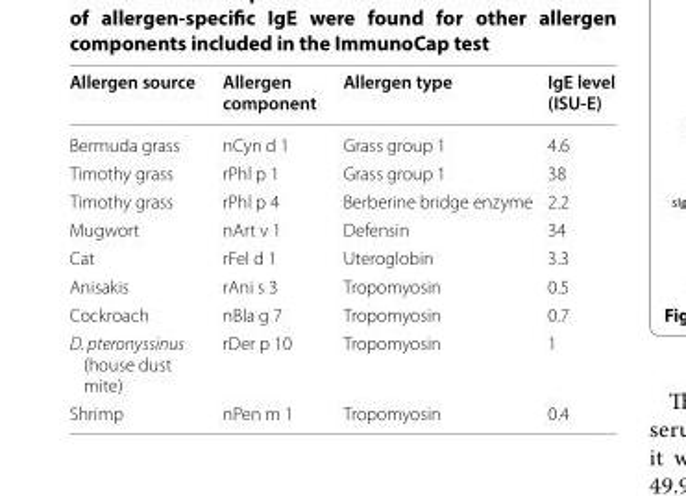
<table><thead><tr><td>Allergen source</td><td>Allergen component</td><td>Allergen type</td><td>IgE level (ISU-E)</td></tr></thead><tbody><tr><td>Bermuda grass</td><td>nCyn d 1</td><td>Grass group 1</td><td>4.6</td></tr><tr><td>Timothy grass</td><td>rPhl p 1</td><td>Grass group 1</td><td>38</td></tr><tr><td>Timothy grass</td><td>rPhl p 4</td><td>Berberine bridge enzyme</td><td>2.2</td></tr><tr><td>Mugwort</td><td>nArt v 1</td><td>Defensin</td><td>34</td></tr><tr><td>Cat</td><td>rFel d 1</td><td>Uteroglobin</td><td>3.3</td></tr><tr><td>Anisakis</td><td>rAni s 3</td><td>Tropomyosin</td><td>0.5</td></tr><tr><td>Cockroach</td><td>nBla g 7</td><td>Tropomyosin</td><td>0.7</td></tr><tr><td>D. pteronyssinus (house dust mite)</td><td>rDer p 10</td><td>Tropomyosin</td><td>1</td></tr><tr><td>Shrimp</td><td>nPen m 1</td><td>Tropomyosin</td><td>0.4</td></tr></tbody></table>